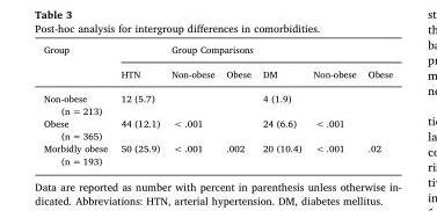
<table><thead><tr><td rowspan="2">Group</td><td rowspan="2">HTN</td><td colspan="5">Group Comparisons</td></tr><tr><td>Non-obese</td><td>Obese</td><td>DM</td><td>Non-obese</td><td>Obese</td></tr></thead><tbody><tr><td>Non-obese (n = 213)</td><td>12 (5.7)</td><td></td><td></td><td>4 (1.9)</td><td></td><td></td></tr><tr><td>Obese (n = 365)</td><td>44 (12.1)</td><td>&lt; .001</td><td></td><td>24 (6.6)</td><td>&lt; .001</td><td></td></tr><tr><td>Morbidly obese (n = 193)</td><td>50 (25.9)</td><td>&lt; .001</td><td>.002</td><td>20 (10.4)</td><td>&lt; .001</td><td>.02</td></tr></tbody></table>